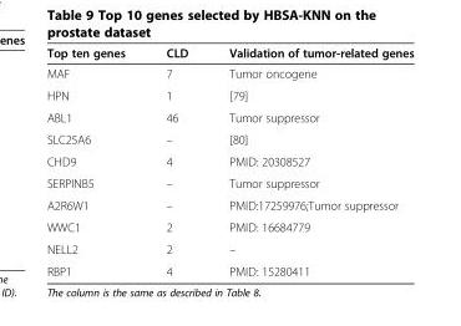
<table><thead><tr><td>Top ten genes</td><td>CLD</td><td>Validation of tumor-related genes</td></tr></thead><tbody><tr><td>MAF</td><td>7</td><td>Tumor oncogene</td></tr><tr><td>HPN</td><td>1</td><td>[79]</td></tr><tr><td>ABL1</td><td>46</td><td>Tumor suppressor</td></tr><tr><td>SLC25A6</td><td>–</td><td>[80]</td></tr><tr><td>CHD9</td><td>4</td><td>PMID: 20308527</td></tr><tr><td>SERPINB5</td><td>–</td><td>Tumor suppressor</td></tr><tr><td>A2R6W1</td><td>–</td><td>PMID:17259976;Tumor suppressor</td></tr><tr><td>WWC1</td><td>2</td><td>PMID: 16684779</td></tr><tr><td>NELL2</td><td>2</td><td>–</td></tr><tr><td>RBP1</td><td>4</td><td>PMID: 15280411</td></tr></tbody></table>